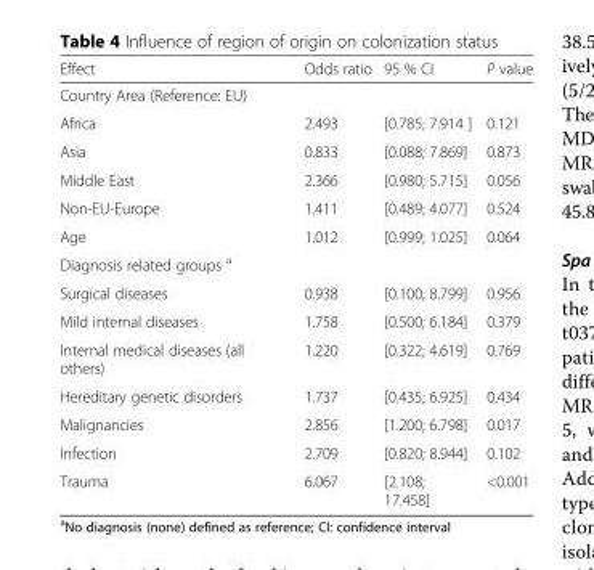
<table><thead><tr><td>Effect</td><td>Odds ratio</td><td>95 % CI</td><td>P value</td></tr></thead><tbody><tr><td colspan="4">Country Area (Reference: EU)</td></tr><tr><td>Africa</td><td>2.493</td><td>[0.785; 7.914 ]</td><td>0.121</td></tr><tr><td>Asia</td><td>0.833</td><td>[0.088; 7.869]</td><td>0.873</td></tr><tr><td>Middle East</td><td>2.366</td><td>[0.980; 5.715]</td><td>0.056</td></tr><tr><td>Non-EU-Europe</td><td>1.411</td><td>[0.489; 4.077]</td><td>0.524</td></tr><tr><td>Age</td><td>1.012</td><td>[0.999; 1.025]</td><td>0.064</td></tr><tr><td colspan="4">Diagnosis related groups <sup>a</sup></td></tr><tr><td>Surgical diseases</td><td>0.938</td><td>[0.100; 8.799]</td><td>0.956</td></tr><tr><td>Mild internal diseases</td><td>1.758</td><td>[0.500; 6.184]</td><td>0.379</td></tr><tr><td>Internal medical diseases (all others)</td><td>1.220</td><td>[0.322; 4.619]</td><td>0.769</td></tr><tr><td>Hereditary genetic disorders</td><td>1.737</td><td>[0.435; 6.925]</td><td>0.434</td></tr><tr><td>Malignancies</td><td>2.856</td><td>[1.200; 6.798]</td><td>0.017</td></tr><tr><td>Infection</td><td>2.709</td><td>[0.820; 8.944]</td><td>0.102</td></tr><tr><td>Trauma</td><td>6.067</td><td>[2.108; 17.458]</td><td>&lt;0.001</td></tr></tbody></table>